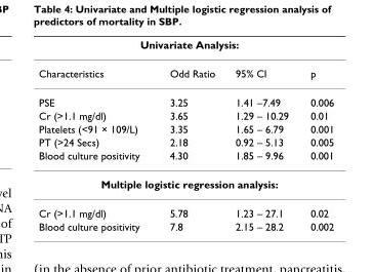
<table><thead><tr><td colspan="4">Univariate Analysis:</td></tr><tr><td>Characteristics</td><td>Odd Ratio</td><td>95% CI</td><td>p</td></tr></thead><tbody><tr><td>PSE</td><td>3.25</td><td>1.41 –7.49</td><td>0.006</td></tr><tr><td>Cr (&gt;1.1 mg/dl)</td><td>3.65</td><td>1.29 – 10.29</td><td>0.01</td></tr><tr><td>Platelets (&lt;91 × 109/L)</td><td>3.35</td><td>1.65 – 6.79</td><td>0.001</td></tr><tr><td>PT (&gt;24 Secs)</td><td>2.18</td><td>0.92 – 5.13</td><td>0.005</td></tr><tr><td>Blood culture positivity</td><td>4.30</td><td>1.85 – 9.96</td><td>0.001</td></tr><tr><td colspan="4">Multiple logistic regression analysis:</td></tr><tr><td>Cr (&gt;1.1 mg/dl)</td><td>5.78</td><td>1.23 – 27.1</td><td>0.02</td></tr><tr><td>Blood culture positivity</td><td>7.8</td><td>2.15 – 28.2</td><td>0.002</td></tr></tbody></table>